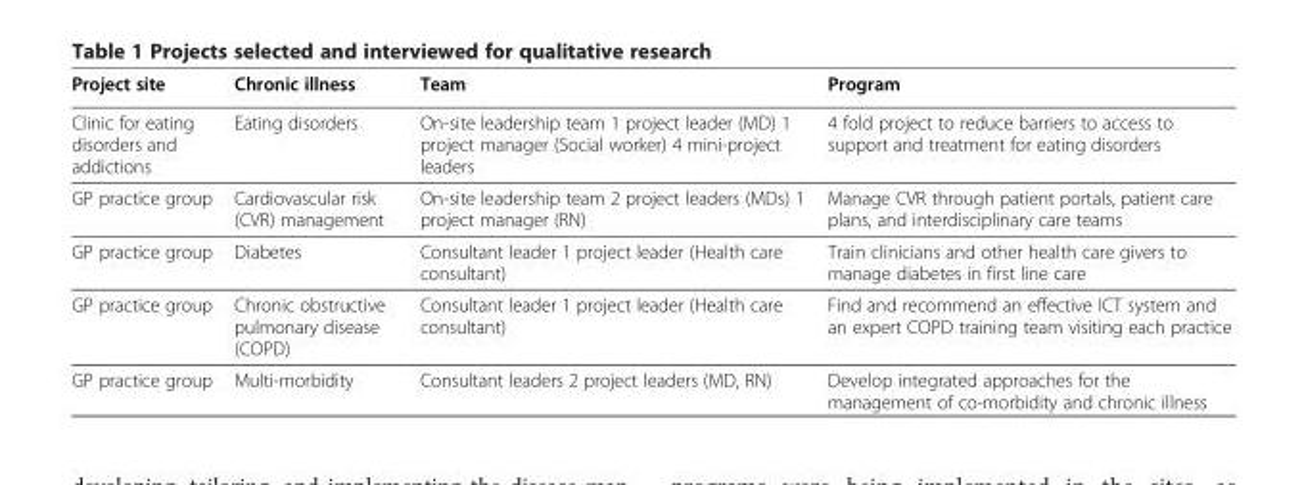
<table><thead><tr><td>Project site</td><td>Chronic illness</td><td>Team</td><td>Program</td></tr></thead><tbody><tr><td>Clinic for eating disorders and addictions</td><td>Eating disorders</td><td>On-site leadership team 1 project leader (MD) 1 project manager (Social worker) 4 mini-project leaders</td><td>4 fold project to reduce barriers to access to support and treatment for eating disorders</td></tr><tr><td>GP practice group</td><td>Cardiovascular risk (CVR) management</td><td>On-site leadership team 2 project leaders (MDs) 1 project manager (RN)</td><td>Manage CVR through patient portals, patient care plans, and interdisciplinary care teams</td></tr><tr><td>GP practice group</td><td>Diabetes</td><td>Consultant leader 1 project leader (Health care consultant)</td><td>Train clinicians and other health care givers to manage diabetes in first line care</td></tr><tr><td>GP practice group</td><td>Chronic obstructive pulmonary disease (COPD)</td><td>Consultant leader 1 project leader (Health care consultant)</td><td>Find and recommend an effective ICT system and an expert COPD training team visiting each practice</td></tr><tr><td>GP practice group</td><td>Multi-morbidity</td><td>Consultant leaders 2 project leaders (MD, RN)</td><td>Develop integrated approaches for the management of co-morbidity and chronic illness</td></tr></tbody></table>